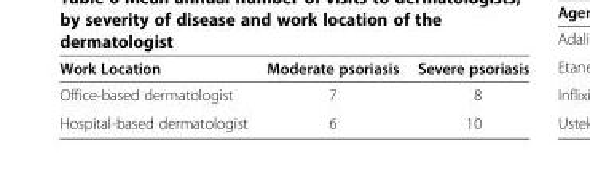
<table><thead><tr><td>Work Location</td><td>Moderate psoriasis</td><td>Severe psoriasis</td></tr></thead><tbody><tr><td>Office-based dermatologist</td><td>7</td><td>8</td></tr><tr><td>Hospital-based dermatologist</td><td>6</td><td>10</td></tr></tbody></table>